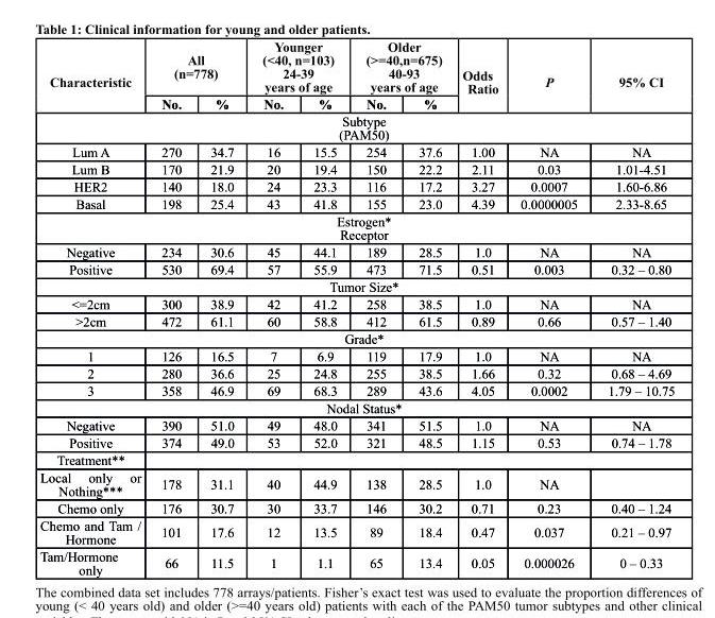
<table><thead><tr><td rowspan="2">Characteristic</td><td colspan="2">All (n=778)</td><td colspan="2">Younger (&lt;40, n=103) 24-39 years of age</td><td colspan="2">Older (&gt;=40,n=675) 40-93 years of age</td><td rowspan="2">Odds Ratio</td><td rowspan="2">P</td><td rowspan="2">95% CI</td></tr><tr><td>No.</td><td>%</td><td>No.</td><td>%</td><td>No.</td><td>%</td></tr></thead><tbody><tr><td colspan="10">Subtype (PAM50)</td></tr><tr><td>Lum A</td><td>270</td><td>34.7</td><td>16</td><td>15.5</td><td>254</td><td>37.6</td><td>1.00</td><td>NA</td><td>NA</td></tr><tr><td>Lum B</td><td>170</td><td>21.9</td><td>20</td><td>19.4</td><td>150</td><td>22.2</td><td>2.11</td><td>0.03</td><td>1.01-4.51</td></tr><tr><td>HER2</td><td>140</td><td>18.0</td><td>24</td><td>23.3</td><td>116</td><td>17.2</td><td>3.27</td><td>0.0007</td><td>1.60-6.86</td></tr><tr><td>Basal</td><td>198</td><td>25.4</td><td>43</td><td>41.8</td><td>155</td><td>23.0</td><td>4.39</td><td>0.0000005</td><td>2.33-8.65</td></tr><tr><td colspan="10">Estrogen* Receptor</td></tr><tr><td>Negative</td><td>234</td><td>30.6</td><td>45</td><td>44.1</td><td>189</td><td>28.5</td><td>1.0</td><td>NA</td><td>NA</td></tr><tr><td>Positive</td><td>530</td><td>69.4</td><td>57</td><td>55.9</td><td>473</td><td>71.5</td><td>0.51</td><td>0.003</td><td>0.32 – 0.80</td></tr><tr><td colspan="10">Tumor Size*</td></tr><tr><td>&lt;=2cm</td><td>300</td><td>38.9</td><td>42</td><td>41.2</td><td>258</td><td>38.5</td><td>1.0</td><td>NA</td><td>NA</td></tr><tr><td>&gt;2cm</td><td>472</td><td>61.1</td><td>60</td><td>58.8</td><td>412</td><td>61.5</td><td>0.89</td><td>0.66</td><td>0.57 – 1.40</td></tr><tr><td colspan="10">Grade*</td></tr><tr><td>1</td><td>126</td><td>16.5</td><td>7</td><td>6.9</td><td>119</td><td>17.9</td><td>1.0</td><td>NA</td><td>NA</td></tr><tr><td>2</td><td>280</td><td>36.6</td><td>25</td><td>24.8</td><td>255</td><td>38.5</td><td>1.66</td><td>0.32</td><td>0.68 – 4.69</td></tr><tr><td>3</td><td>358</td><td>46.9</td><td>69</td><td>68.3</td><td>289</td><td>43.6</td><td>4.05</td><td>0.0002</td><td>1.79 – 10.75</td></tr><tr><td colspan="10">Nodal Status*</td></tr><tr><td>Negative</td><td>390</td><td>51.0</td><td>49</td><td>48.0</td><td>341</td><td>51.5</td><td>1.0</td><td>NA</td><td>NA</td></tr><tr><td>Positive</td><td>374</td><td>49.0</td><td>53</td><td>52.0</td><td>321</td><td>48.5</td><td>1.15</td><td>0.53</td><td>0.74 – 1.78</td></tr><tr><td colspan="10">Treatment**</td></tr><tr><td>Local only or Nothing***</td><td>178</td><td>31.1</td><td>40</td><td>44.9</td><td>138</td><td>28.5</td><td>1.0</td><td>NA</td><td></td></tr><tr><td>Chemo only</td><td>176</td><td>30.7</td><td>30</td><td>33.7</td><td>146</td><td>30.2</td><td>0.71</td><td>0.23</td><td>0.40 – 1.24</td></tr><tr><td>Chemo and Tam / Hormone</td><td>101</td><td>17.6</td><td>12</td><td>13.5</td><td>89</td><td>18.4</td><td>0.47</td><td>0.037</td><td>0.21 – 0.97</td></tr><tr><td>Tam/Hormone only</td><td>66</td><td>11.5</td><td>1</td><td>1.1</td><td>65</td><td>13.4</td><td>0.05</td><td>0.000026</td><td>0 – 0.33</td></tr></tbody></table>